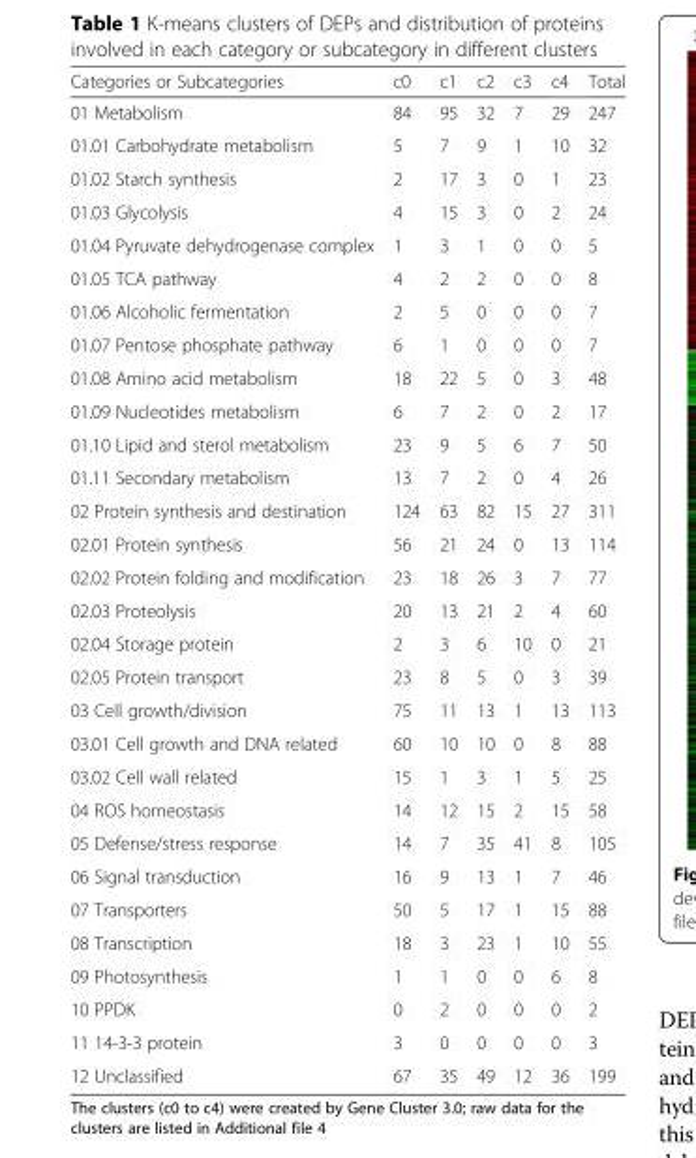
<table><thead><tr><td>Categories or Subcategories</td><td>c0</td><td>c1</td><td>c2</td><td>c3</td><td>c4</td><td>Total</td></tr></thead><tbody><tr><td>01 Metabolism</td><td>84</td><td>95</td><td>32</td><td>7</td><td>29</td><td>247</td></tr><tr><td>01.01 Carbohydrate metabolism</td><td>5</td><td>7</td><td>9</td><td>1</td><td>10</td><td>32</td></tr><tr><td>01.02 Starch synthesis</td><td>2</td><td>17</td><td>3</td><td>0</td><td>1</td><td>23</td></tr><tr><td>01.03 Glycolysis</td><td>4</td><td>15</td><td>3</td><td>0</td><td>2</td><td>24</td></tr><tr><td>01.04 Pyruvate dehydrogenase complex</td><td>1</td><td>3</td><td>1</td><td>0</td><td>0</td><td>5</td></tr><tr><td>01.05 TCA pathway</td><td>4</td><td>2</td><td>2</td><td>0</td><td>0</td><td>8</td></tr><tr><td>01.06 Alcoholic fermentation</td><td>2</td><td>5</td><td>0</td><td>0</td><td>0</td><td>7</td></tr><tr><td>01.07 Pentose phosphate pathway</td><td>6</td><td>1</td><td>0</td><td>0</td><td>0</td><td>7</td></tr><tr><td>01.08 Amino acid metabolism</td><td>18</td><td>22</td><td>5</td><td>0</td><td>3</td><td>48</td></tr><tr><td>01.09 Nucleotides metabolism</td><td>6</td><td>7</td><td>2</td><td>0</td><td>2</td><td>17</td></tr><tr><td>01.10 Lipid and sterol metabolism</td><td>23</td><td>9</td><td>5</td><td>6</td><td>7</td><td>50</td></tr><tr><td>01.11 Secondary metabolism</td><td>13</td><td>7</td><td>2</td><td>0</td><td>4</td><td>26</td></tr><tr><td>02 Protein synthesis and destination</td><td>124</td><td>63</td><td>82</td><td>15</td><td>27</td><td>311</td></tr><tr><td>02.01 Protein synthesis</td><td>56</td><td>21</td><td>24</td><td>0</td><td>13</td><td>114</td></tr><tr><td>02.02 Protein folding and modification</td><td>23</td><td>18</td><td>26</td><td>3</td><td>7</td><td>77</td></tr><tr><td>02.03 Proteolysis</td><td>20</td><td>13</td><td>21</td><td>2</td><td>4</td><td>60</td></tr><tr><td>02.04 Storage protein</td><td>2</td><td>3</td><td>6</td><td>10</td><td>0</td><td>21</td></tr><tr><td>02.05 Protein transport</td><td>23</td><td>8</td><td>5</td><td>0</td><td>3</td><td>39</td></tr><tr><td>03 Cell growth/division</td><td>75</td><td>11</td><td>13</td><td>1</td><td>13</td><td>113</td></tr><tr><td>03.01 Cell growth and DNA related</td><td>60</td><td>10</td><td>10</td><td>0</td><td>8</td><td>88</td></tr><tr><td>03.02 Cell wall related</td><td>15</td><td>1</td><td>3</td><td>1</td><td>5</td><td>25</td></tr><tr><td>04 ROS homeostasis</td><td>14</td><td>12</td><td>15</td><td>2</td><td>15</td><td>58</td></tr><tr><td>05 Defense/stress response</td><td>14</td><td>7</td><td>35</td><td>41</td><td>8</td><td>105</td></tr><tr><td>06 Signal transduction</td><td>16</td><td>9</td><td>13</td><td>1</td><td>7</td><td>46</td></tr><tr><td>07 Transporters</td><td>50</td><td>5</td><td>17</td><td>1</td><td>15</td><td>88</td></tr><tr><td>08 Transcription</td><td>18</td><td>3</td><td>23</td><td>1</td><td>10</td><td>55</td></tr><tr><td>09 Photosynthesis</td><td>1</td><td>1</td><td>0</td><td>0</td><td>6</td><td>8</td></tr><tr><td>10 PPDK</td><td>0</td><td>2</td><td>0</td><td>0</td><td>0</td><td>2</td></tr><tr><td>11 14-3-3 protein</td><td>3</td><td>0</td><td>0</td><td>0</td><td>0</td><td>3</td></tr><tr><td>12 Unclassified</td><td>67</td><td>35</td><td>49</td><td>12</td><td>36</td><td>199</td></tr></tbody></table>